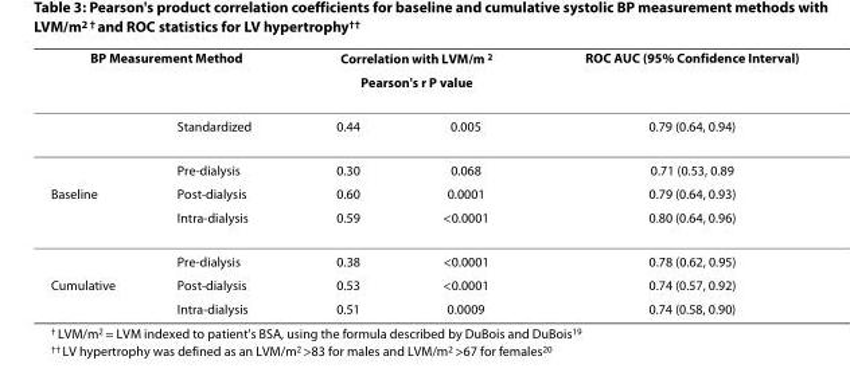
<table><thead><tr><td colspan="2">BP Measurement Method</td><td rowspan="2" colspan="2">Correlation with LVM/m 2 Pearson&#x27;s r P value</td><td rowspan="3">ROC AUC (95% Confidence Interval) 0.79 (0.64, 0.94)</td></tr><tr><td rowspan="2"></td><td rowspan="2">Standardized</td></tr><tr><td>0.44</td><td>0.005</td></tr></thead><tbody><tr><td></td><td>Pre-dialysis</td><td>0.30</td><td>0.068</td><td>0.71 (0.53, 0.89</td></tr><tr><td rowspan="3">Baseline</td><td>Post-dialysis</td><td>0.60</td><td>0.0001</td><td>0.79 (0.64, 0.93)</td></tr><tr><td>Intra-dialysis</td><td>0.59</td><td>&lt;0.0001</td><td>0.80 (0.64, 0.96)</td></tr><tr><td>Pre-dialysis</td><td>0.38</td><td>&lt;0.0001</td><td>0.78 (0.62, 0.95)</td></tr><tr><td rowspan="2">Cumulative</td><td>Post-dialysis</td><td>0.53</td><td>&lt;0.0001</td><td>0.74 (0.57, 0.92)</td></tr><tr><td>Intra-dialysis</td><td>0.51</td><td>0.0009</td><td>0.74 (0.58, 0.90)</td></tr></tbody></table>